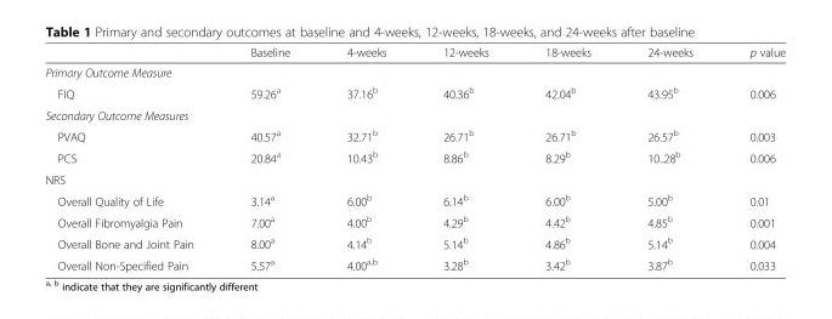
<table><thead><tr><td></td><td>Baseline</td><td>4-weeks</td><td>12-weeks</td><td>18-weeks</td><td>24-weeks</td><td>p value</td></tr></thead><tbody><tr><td colspan="7">Primary Outcome Measure</td></tr><tr><td>FIQ</td><td>59.26<sup>a</sup></td><td>37.16<sup>b</sup></td><td>40.36<sup>b</sup></td><td>42.04<sup>b</sup></td><td>43.95<sup>b</sup></td><td>0.006</td></tr><tr><td colspan="7">Secondary Outcome Measures</td></tr><tr><td>PVAQ</td><td>40.57<sup>a</sup></td><td>32.71<sup>b</sup></td><td>26.71<sup>b</sup></td><td>26.71<sup>b</sup></td><td>26.57<sup>b</sup></td><td>0.003</td></tr><tr><td>PCS</td><td>20.84<sup>a</sup></td><td>10.43<sup>b</sup></td><td>8.86<sup>b</sup></td><td>8.29<sup>b</sup></td><td>10..28<sup>b</sup></td><td>0.006</td></tr><tr><td colspan="7">NRS</td></tr><tr><td>Overall Quality of Life</td><td>3.14<sup>a</sup></td><td>6.00<sup>b</sup></td><td>6.14<sup>b</sup></td><td>6.00<sup>b</sup></td><td>5.00<sup>b</sup></td><td>0.01</td></tr><tr><td>Overall Fibromyalgia Pain</td><td>7.00<sup>a</sup></td><td>4.00<sup>b</sup></td><td>4.29<sup>b</sup></td><td>4.42<sup>b</sup></td><td>4.85<sup>b</sup></td><td>0.001</td></tr><tr><td>Overall Bone and Joint Pain</td><td>8.00<sup>a</sup></td><td>4.14<sup>b</sup></td><td>5.14<sup>b</sup></td><td>4.86<sup>b</sup></td><td>5.14<sup>b</sup></td><td>0.004</td></tr><tr><td>Overall Non-Specified Pain</td><td>5.57<sup>a</sup></td><td>4.00<sup>a,b</sup></td><td>3.28<sup>b</sup></td><td>3.42<sup>b</sup></td><td>3.87<sup>b</sup></td><td>0.033</td></tr></tbody></table>